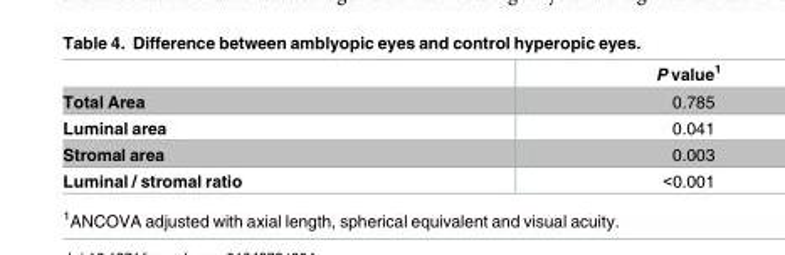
<table><thead><tr><td></td><td>P value<sup>1</sup></td></tr></thead><tbody><tr><td>Total Area</td><td>0.785</td></tr><tr><td>Luminal area</td><td>0.041</td></tr><tr><td>Stromal area</td><td>0.003</td></tr><tr><td>Luminal / stromal ratio</td><td>&lt;0.001</td></tr></tbody></table>